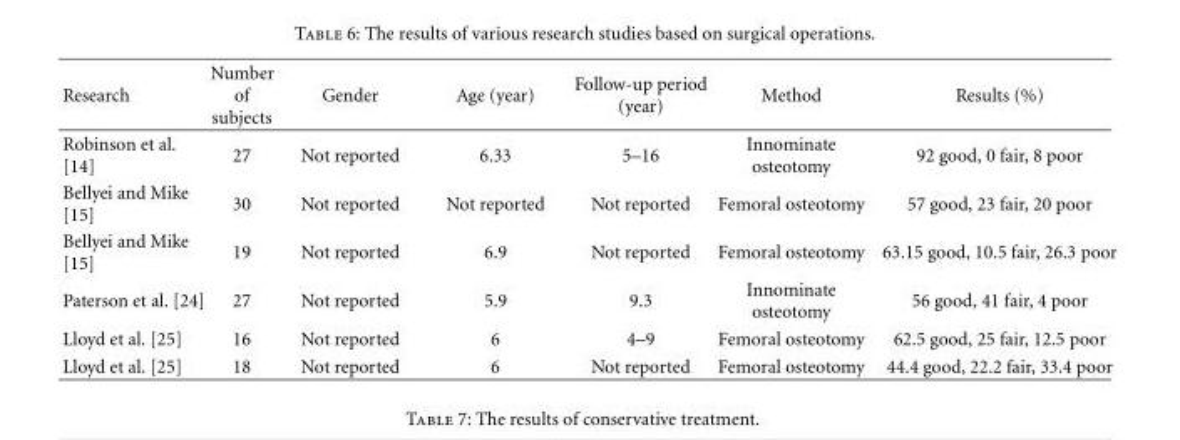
<table><thead><tr><td>Research</td><td>Number of subjects</td><td>Gender</td><td>Age (year)</td><td>Follow-up period (year)</td><td>Method</td><td>Results (%)</td></tr></thead><tbody><tr><td>Robinson et al. [14]</td><td>27</td><td>Not reported</td><td>6.33</td><td>5–16</td><td>Innominate osteotomy</td><td>92 good, 0 fair, 8 poor</td></tr><tr><td>Bellyei and Mike [15]</td><td>30</td><td>Not reported</td><td>Not reported</td><td>Not reported</td><td>Femoral osteotomy</td><td>57 good, 23 fair, 20 poor</td></tr><tr><td>Bellyei and Mike [15]</td><td>19</td><td>Not reported</td><td>6.9</td><td>Not reported</td><td>Femoral osteotomy</td><td>63.15 good, 10.5 fair, 26.3 poor</td></tr><tr><td>Paterson et al. [24]</td><td>27</td><td>Not reported</td><td>5.9</td><td>9.3</td><td>Innominate osteotomy</td><td>56 good, 41 fair, 4 poor</td></tr><tr><td>Lloyd et al. [25]</td><td>16</td><td>Not reported</td><td>6</td><td>4–9</td><td>Femoral osteotomy</td><td>62.5 good, 25 fair, 12.5 poor</td></tr><tr><td>Lloyd et al. [25]</td><td>18</td><td>Not reported</td><td>6</td><td>Not reported</td><td>Femoral osteotomy</td><td>44.4 good, 22.2 fair, 33.4 poor</td></tr></tbody></table>